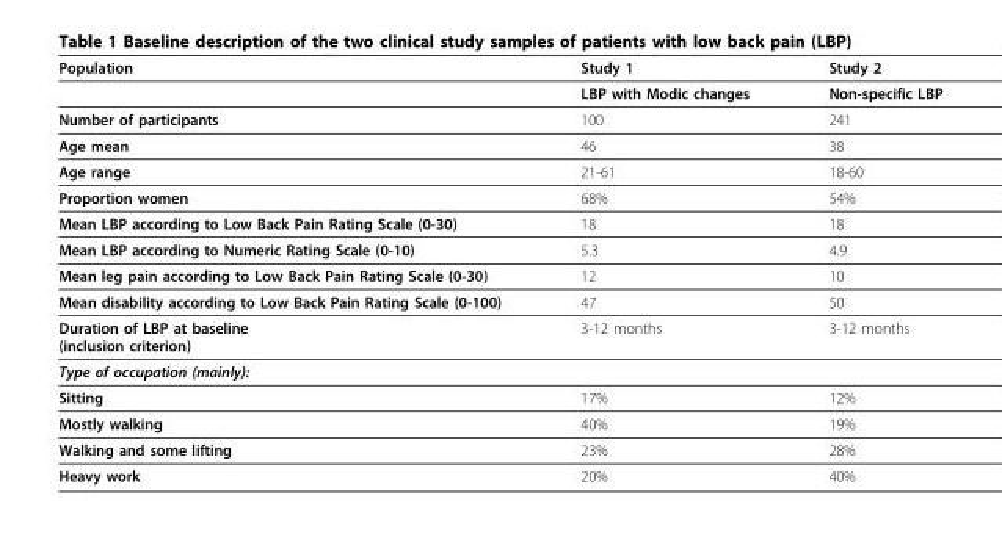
<table><thead><tr><td>Population</td><td>Study 1</td><td>Study 2</td></tr></thead><tbody><tr><td></td><td>LBP with Modic changes</td><td>Non-specific LBP</td></tr><tr><td>Number of participants</td><td>100</td><td>241</td></tr><tr><td>Age mean</td><td>46</td><td>38</td></tr><tr><td>Age range</td><td>21-61</td><td>18-60</td></tr><tr><td>Proportion women</td><td>68%</td><td>54%</td></tr><tr><td>Mean LBP according to Low Back Pain Rating Scale (0-30)</td><td>18</td><td>18</td></tr><tr><td>Mean LBP according to Numeric Rating Scale (0-10)</td><td>5.3</td><td>4.9</td></tr><tr><td>Mean leg pain according to Low Back Pain Rating Scale (0-30)</td><td>12</td><td>10</td></tr><tr><td>Mean disability according to Low Back Pain Rating Scale (0-100)</td><td>47</td><td>50</td></tr><tr><td>Duration of LBP at baseline (inclusion criterion)</td><td>3-12 months</td><td>3-12 months</td></tr><tr><td colspan="3">Type of occupation (mainly):</td></tr><tr><td>Sitting</td><td>17%</td><td>12%</td></tr><tr><td>Mostly walking</td><td>40%</td><td>19%</td></tr><tr><td>Walking and some lifting</td><td>23%</td><td>28%</td></tr><tr><td>Heavy work</td><td>20%</td><td>40%</td></tr></tbody></table>